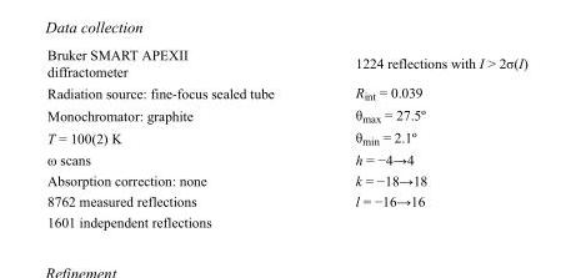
<table><tbody><tr><td>Bruker SMART APEXII diffractometer</td><td>1224 reflections with I &gt; 2σ(I)</td></tr><tr><td>Radiation source: fine-focus sealed tube</td><td>R<sub>int</sub> = 0.039</td></tr><tr><td>Monochromator: graphite</td><td>θ<sub>max</sub> = 27.5º</td></tr><tr><td>T = 100(2) K</td><td>θ<sub>min</sub> = 2.1º</td></tr><tr><td>ω scans</td><td>h = −4→4</td></tr><tr><td>Absorption correction: none</td><td>k = −18→18</td></tr><tr><td>8762 measured reflections</td><td>l = −16→16</td></tr><tr><td>1601 independent reflections</td><td></td></tr></tbody></table>